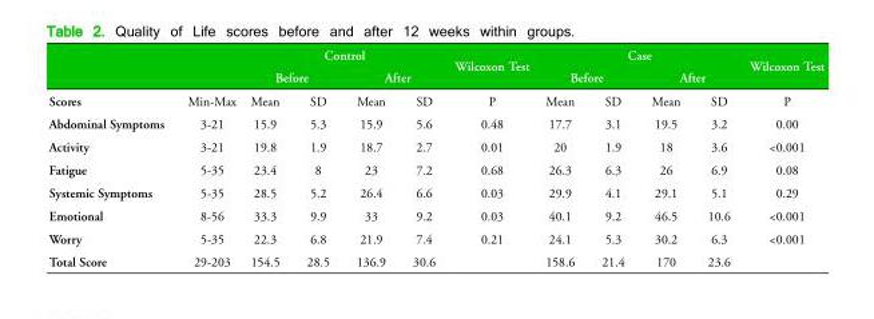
<table><thead><tr><td rowspan="3">Scores</td><td rowspan="3">Min-Max</td><td colspan="4">Control</td><td rowspan="3">Wilcoxon Test P</td><td colspan="4">Case</td><td rowspan="3">Wilcoxon Test P</td></tr><tr><td colspan="2">Before</td><td colspan="2">After</td><td colspan="2">Before</td><td colspan="2">After</td></tr><tr><td>Mean</td><td>SD</td><td>Mean</td><td>SD</td><td>Mean</td><td>SD</td><td>Mean</td><td>SD</td></tr></thead><tbody><tr><td>Abdominal Symptoms</td><td>3-21</td><td>15.9</td><td>5.3</td><td>15.9</td><td>5.6</td><td>0.48</td><td>17.7</td><td>3.1</td><td>19.5</td><td>3.2</td><td>0.00</td></tr><tr><td>Activity</td><td>3-21</td><td>19.8</td><td>1.9</td><td>18.7</td><td>2.7</td><td>0.01</td><td>20</td><td>1.9</td><td>18</td><td>3.6</td><td>&lt;0.001</td></tr><tr><td>Fatigue</td><td>5-35</td><td>23.4</td><td>8</td><td>23</td><td>7.2</td><td>0.68</td><td>26.3</td><td>6.3</td><td>26</td><td>6.9</td><td>0.08</td></tr><tr><td>Systemic Symptoms</td><td>5-35</td><td>28.5</td><td>5.2</td><td>26.4</td><td>6.6</td><td>0.03</td><td>29.9</td><td>4.1</td><td>29.1</td><td>5.1</td><td>0.29</td></tr><tr><td>Emotional</td><td>8-56</td><td>33.3</td><td>9.9</td><td>33</td><td>9.2</td><td>0.03</td><td>40.1</td><td>9.2</td><td>46.5</td><td>10.6</td><td>&lt;0.001</td></tr><tr><td>Worry</td><td>5-35</td><td>22.3</td><td>6.8</td><td>21.9</td><td>7.4</td><td>0.21</td><td>24.1</td><td>5.3</td><td>30.2</td><td>6.3</td><td>&lt;0.001</td></tr><tr><td>Total Score</td><td>29-203</td><td>154.5</td><td>28.5</td><td>136.9</td><td>30.6</td><td></td><td>158.6</td><td>21.4</td><td>170</td><td>23.6</td><td></td></tr></tbody></table>